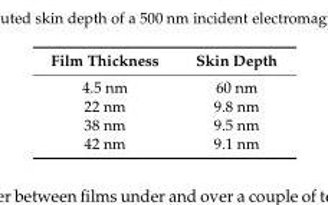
<table><thead><tr><td>Film Thickness</td><td>Skin Depth</td></tr></thead><tbody><tr><td>4.5 nm</td><td>60 nm</td></tr><tr><td>22 nm</td><td>9.8 nm</td></tr><tr><td>38 nm</td><td>9.5 nm</td></tr><tr><td>42 nm</td><td>9.1 nm</td></tr></tbody></table>